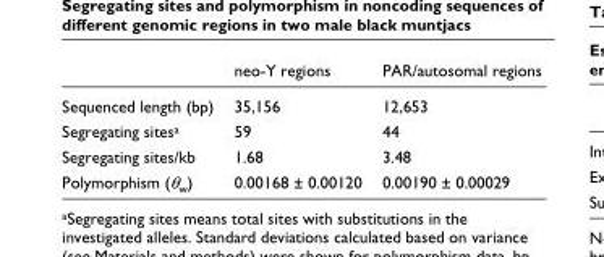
<table><thead><tr><td></td><td>neo-Y regions</td><td>PAR/autosomal regions</td></tr></thead><tbody><tr><td>Sequenced length (bp)</td><td>35,156</td><td>12,653</td></tr><tr><td>Segregating sites<sup>a</sup></td><td>59</td><td>44</td></tr><tr><td>Segregating sites/kb</td><td>1.68</td><td>3.48</td></tr><tr><td>Polymorphism (θ<sub>w</sub>)</td><td>0.00168 ± 0.00120</td><td>0.00190 ± 0.00029</td></tr></tbody></table>